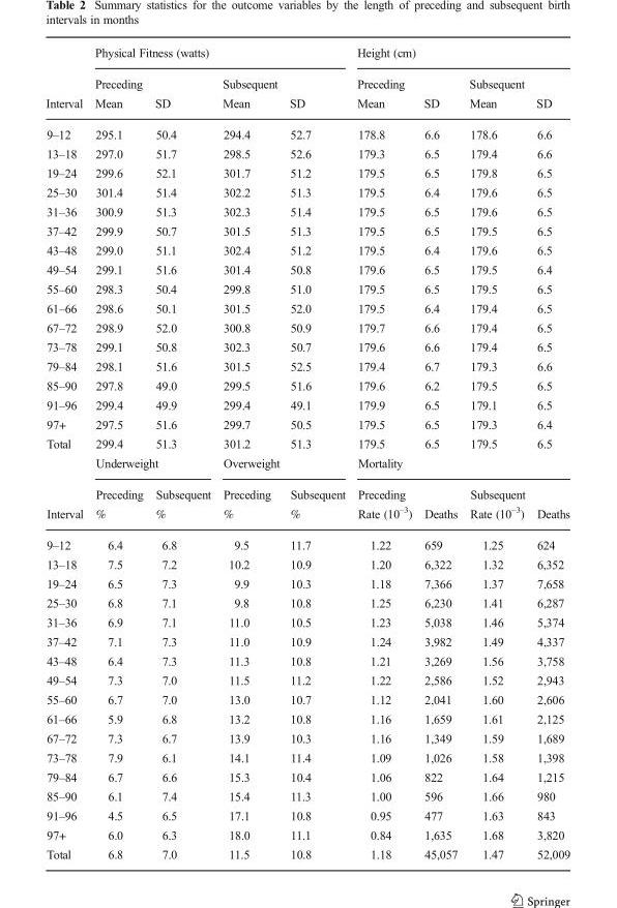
<table><thead><tr><td rowspan="3">Interval</td><td colspan="4">Physical Fitness (watts)</td><td colspan="4">Height (cm)</td></tr><tr><td rowspan="2">Preceding Mean</td><td rowspan="2">SD</td><td rowspan="2">Subsequent Mean</td><td rowspan="2">SD</td><td rowspan="2">Preceding Mean</td><td rowspan="2">SD</td><td rowspan="2">Subsequent Mean</td><td rowspan="2">SD</td></tr><tr></tr></thead><tbody><tr><td>9–12</td><td>295.1</td><td>50.4</td><td>294.4</td><td>52.7</td><td>178.8</td><td>6.6</td><td>178.6</td><td>6.6</td></tr><tr><td>13–18</td><td>297.0</td><td>51.7</td><td>298.5</td><td>52.6</td><td>179.3</td><td>6.5</td><td>179.4</td><td>6.6</td></tr><tr><td>19–24</td><td>299.6</td><td>52.1</td><td>301.7</td><td>51.2</td><td>179.5</td><td>6.5</td><td>179.8</td><td>6.5</td></tr><tr><td>25–30</td><td>301.4</td><td>51.4</td><td>302.2</td><td>51.3</td><td>179.5</td><td>6.4</td><td>179.6</td><td>6.5</td></tr><tr><td>31–36</td><td>300.9</td><td>51.3</td><td>302.3</td><td>51.4</td><td>179.5</td><td>6.5</td><td>179.6</td><td>6.5</td></tr><tr><td>37–42</td><td>299.9</td><td>50.7</td><td>301.5</td><td>51.3</td><td>179.5</td><td>6.5</td><td>179.5</td><td>6.5</td></tr><tr><td>43–48</td><td>299.0</td><td>51.1</td><td>302.4</td><td>51.2</td><td>179.5</td><td>6.4</td><td>179.6</td><td>6.5</td></tr><tr><td>49–54</td><td>299.1</td><td>51.6</td><td>301.4</td><td>50.8</td><td>179.6</td><td>6.5</td><td>179.5</td><td>6.4</td></tr><tr><td>55–60</td><td>298.3</td><td>50.4</td><td>299.8</td><td>51.0</td><td>179.5</td><td>6.5</td><td>179.5</td><td>6.5</td></tr><tr><td>61–66</td><td>298.6</td><td>50.1</td><td>301.5</td><td>52.0</td><td>179.5</td><td>6.4</td><td>179.4</td><td>6.5</td></tr><tr><td>67–72</td><td>298.9</td><td>52.0</td><td>300.8</td><td>50.9</td><td>179.7</td><td>6.6</td><td>179.4</td><td>6.5</td></tr><tr><td>73–78</td><td>299.1</td><td>50.8</td><td>302.3</td><td>50.7</td><td>179.6</td><td>6.6</td><td>179.4</td><td>6.5</td></tr><tr><td>79–84</td><td>298.1</td><td>51.6</td><td>301.5</td><td>52.5</td><td>179.4</td><td>6.7</td><td>179.3</td><td>6.6</td></tr><tr><td>85–90</td><td>297.8</td><td>49.0</td><td>299.5</td><td>51.6</td><td>179.6</td><td>6.2</td><td>179.5</td><td>6.5</td></tr><tr><td>91–96</td><td>299.4</td><td>49.9</td><td>299.4</td><td>49.1</td><td>179.9</td><td>6.5</td><td>179.1</td><td>6.5</td></tr><tr><td>97+</td><td>297.5</td><td>51.6</td><td>299.7</td><td>50.5</td><td>179.5</td><td>6.5</td><td>179.3</td><td>6.4</td></tr><tr><td rowspan="3">Total</td><td>299.4</td><td>51.3</td><td>301.2</td><td>51.3</td><td>179.5</td><td>6.5</td><td>179.5</td><td>6.5</td></tr><tr><td colspan="2">Underweight</td><td colspan="2">Overweight</td><td colspan="4">Mortality</td></tr><tr><td>Preceding</td><td>Subsequent</td><td>Preceding</td><td>Subsequent</td><td colspan="2">Preceding</td><td colspan="2">Subsequent</td></tr><tr><td>Interval</td><td>%</td><td>%</td><td>%</td><td>%</td><td>Rate (10<sup>–3</sup>)</td><td>Deaths</td><td>Rate (10<sup>–3</sup>)</td><td>Deaths</td></tr><tr><td>9–12</td><td>6.4</td><td>6.8</td><td>9.5</td><td>11.7</td><td>1.22</td><td>659</td><td>1.25</td><td>624</td></tr><tr><td>13–18</td><td>7.5</td><td>7.2</td><td>10.2</td><td>10.9</td><td>1.20</td><td>6,322</td><td>1.32</td><td>6,352</td></tr><tr><td>19–24</td><td>6.5</td><td>7.3</td><td>9.9</td><td>10.3</td><td>1.18</td><td>7,366</td><td>1.37</td><td>7,658</td></tr><tr><td>25–30</td><td>6.8</td><td>7.1</td><td>9.8</td><td>10.8</td><td>1.25</td><td>6,230</td><td>1.41</td><td>6,287</td></tr><tr><td>31–36</td><td>6.9</td><td>7.1</td><td>11.0</td><td>10.5</td><td>1.23</td><td>5,038</td><td>1.46</td><td>5,374</td></tr><tr><td>37–42</td><td>7.1</td><td>7.3</td><td>11.0</td><td>10.9</td><td>1.24</td><td>3,982</td><td>1.49</td><td>4,337</td></tr><tr><td>43–48</td><td>6.4</td><td>7.3</td><td>11.3</td><td>10.8</td><td>1.21</td><td>3,269</td><td>1.56</td><td>3,758</td></tr><tr><td>49–54</td><td>7.3</td><td>7.0</td><td>11.5</td><td>11.2</td><td>1.22</td><td>2,586</td><td>1.52</td><td>2,943</td></tr><tr><td>55–60</td><td>6.7</td><td>7.0</td><td>13.0</td><td>10.7</td><td>1.12</td><td>2,041</td><td>1.60</td><td>2,606</td></tr><tr><td>61–66</td><td>5.9</td><td>6.8</td><td>13.2</td><td>10.8</td><td>1.16</td><td>1,659</td><td>1.61</td><td>2,125</td></tr><tr><td>67–72</td><td>7.3</td><td>6.7</td><td>13.9</td><td>10.3</td><td>1.16</td><td>1,349</td><td>1.59</td><td>1,689</td></tr><tr><td>73–78</td><td>7.9</td><td>6.1</td><td>14.1</td><td>11.4</td><td>1.09</td><td>1,026</td><td>1.58</td><td>1,398</td></tr><tr><td>79–84</td><td>6.7</td><td>6.6</td><td>15.3</td><td>10.4</td><td>1.06</td><td>822</td><td>1.64</td><td>1,215</td></tr><tr><td>85–90</td><td>6.1</td><td>7.4</td><td>15.4</td><td>11.3</td><td>1.00</td><td>596</td><td>1.66</td><td>980</td></tr><tr><td>91–96</td><td>4.5</td><td>6.5</td><td>17.1</td><td>10.8</td><td>0.95</td><td>477</td><td>1.63</td><td>843</td></tr><tr><td>97+</td><td>6.0</td><td>6.3</td><td>18.0</td><td>11.1</td><td>0.84</td><td>1,635</td><td>1.68</td><td>3,820</td></tr><tr><td>Total</td><td>6.8</td><td>7.0</td><td>11.5</td><td>10.8</td><td>1.18</td><td>45,057</td><td>1.47</td><td>52,009</td></tr></tbody></table>